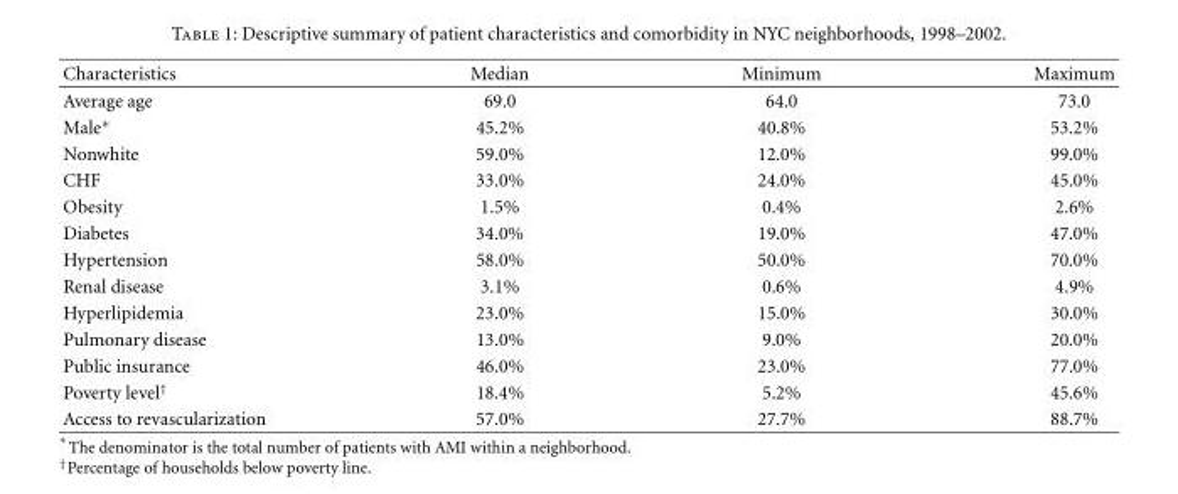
<table><thead><tr><td>Characteristics</td><td>Median</td><td>Minimum</td><td>Maximum</td></tr></thead><tbody><tr><td>Average age</td><td>69.0</td><td>64.0</td><td>73.0</td></tr><tr><td>Male∗</td><td>45.2%</td><td>40.8%</td><td>53.2%</td></tr><tr><td>Nonwhite</td><td>59.0%</td><td>12.0%</td><td>99.0%</td></tr><tr><td>CHF</td><td>33.0%</td><td>24.0%</td><td>45.0%</td></tr><tr><td>Obesity</td><td>1.5%</td><td>0.4%</td><td>2.6%</td></tr><tr><td>Diabetes</td><td>34.0%</td><td>19.0%</td><td>47.0%</td></tr><tr><td>Hypertension</td><td>58.0%</td><td>50.0%</td><td>70.0%</td></tr><tr><td>Renal disease</td><td>3.1%</td><td>0.6%</td><td>4.9%</td></tr><tr><td>Hyperlipidemia</td><td>23.0%</td><td>15.0%</td><td>30.0%</td></tr><tr><td>Pulmonary disease</td><td>13.0%</td><td>9.0%</td><td>20.0%</td></tr><tr><td>Public insurance</td><td>46.0%</td><td>23.0%</td><td>77.0%</td></tr><tr><td>Poverty level<sup>†</sup></td><td>18.4%</td><td>5.2%</td><td>45.6%</td></tr><tr><td>Access to revascularization</td><td>57.0%</td><td>27.7%</td><td>88.7%</td></tr></tbody></table>